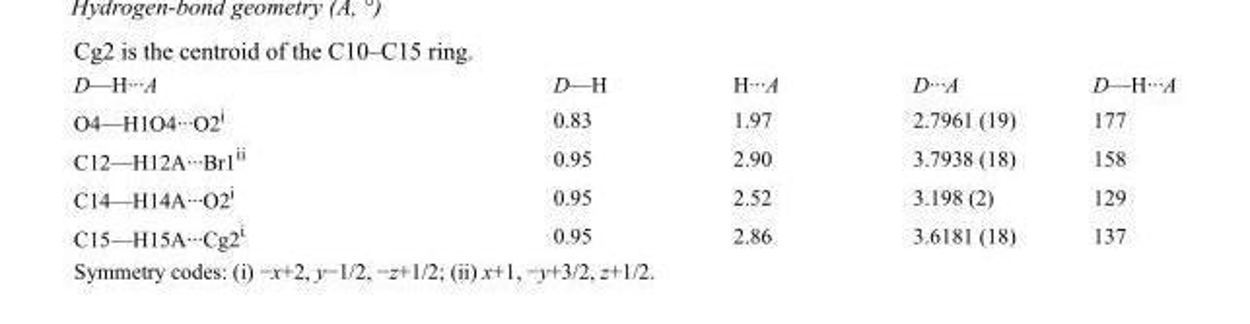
<table><tbody><tr><td>D—H···A</td><td>D—H</td><td>H···A</td><td>D···A</td><td>D—H···A</td></tr><tr><td>O4—H1O4···O2<sup>i</sup></td><td>0.83</td><td>1.97</td><td>2.7961 (19)</td><td>177</td></tr><tr><td>C12—H12A···Br1<sup>ii</sup></td><td>0.95</td><td>2.90</td><td>3.7938 (18)</td><td>158</td></tr><tr><td>C14—H14A···O2<sup>i</sup></td><td>0.95</td><td>2.52</td><td>3.198 (2)</td><td>129</td></tr><tr><td>C15—H15A···Cg2<sup>i</sup></td><td>0.95</td><td>2.86</td><td>3.6181 (18)</td><td>137</td></tr></tbody></table>